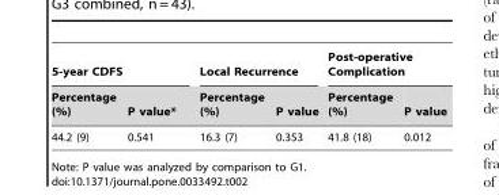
<table><thead><tr><td colspan="2">5-year CDFS</td><td colspan="2">Local Recurrence</td><td colspan="2">Post-operative Complication</td></tr><tr><td>Percentage (%)</td><td>P value*</td><td>Percentage (%)</td><td>P value</td><td>Percentage (%)</td><td>P value</td></tr></thead><tbody><tr><td>44.2 (9)</td><td>0.541</td><td>16.3 (7)</td><td>0.353</td><td>41.8 (18)</td><td>0.012</td></tr></tbody></table>